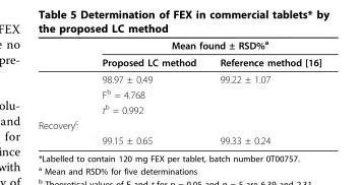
<table><thead><tr><td rowspan="2"></td><td colspan="2">Mean found ± RSD%<sup>a</sup></td></tr><tr><td>Proposed LC method</td><td>Reference method [16]</td></tr></thead><tbody><tr><td></td><td>98.97 ± 0.49</td><td>99.22 ± 1.07</td></tr><tr><td></td><td>F<sup>b</sup> = 4.768</td><td></td></tr><tr><td></td><td>t<sup>b</sup> = 0.992</td><td></td></tr><tr><td colspan="3">Recovery<sup>c</sup></td></tr><tr><td></td><td>99.15 ± 0.65</td><td>99.33 ± 0.24</td></tr></tbody></table>